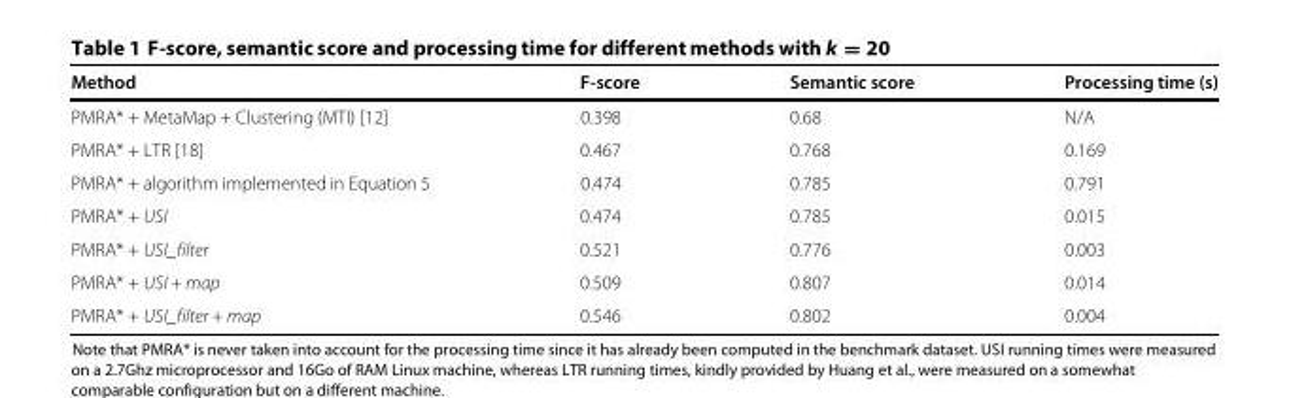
<table><thead><tr><td>Method</td><td>F-score</td><td>Semantic score</td><td>Processing time (s)</td></tr></thead><tbody><tr><td>PMRA* + MetaMap + Clustering (MTI) [12]</td><td>0.398</td><td>0.68</td><td>N/A</td></tr><tr><td>PMRA* + LTR [18]</td><td>0.467</td><td>0.768</td><td>0.169</td></tr><tr><td>PMRA* + algorithm implemented in Equation 5</td><td>0.474</td><td>0.785</td><td>0.791</td></tr><tr><td>PMRA* + USI</td><td>0.474</td><td>0.785</td><td>0.015</td></tr><tr><td>PMRA* + USI_filter</td><td>0.521</td><td>0.776</td><td>0.003</td></tr><tr><td>PMRA* + USI + map</td><td>0.509</td><td>0.807</td><td>0.014</td></tr><tr><td>PMRA* + USI_filter + map</td><td>0.546</td><td>0.802</td><td>0.004</td></tr></tbody></table>